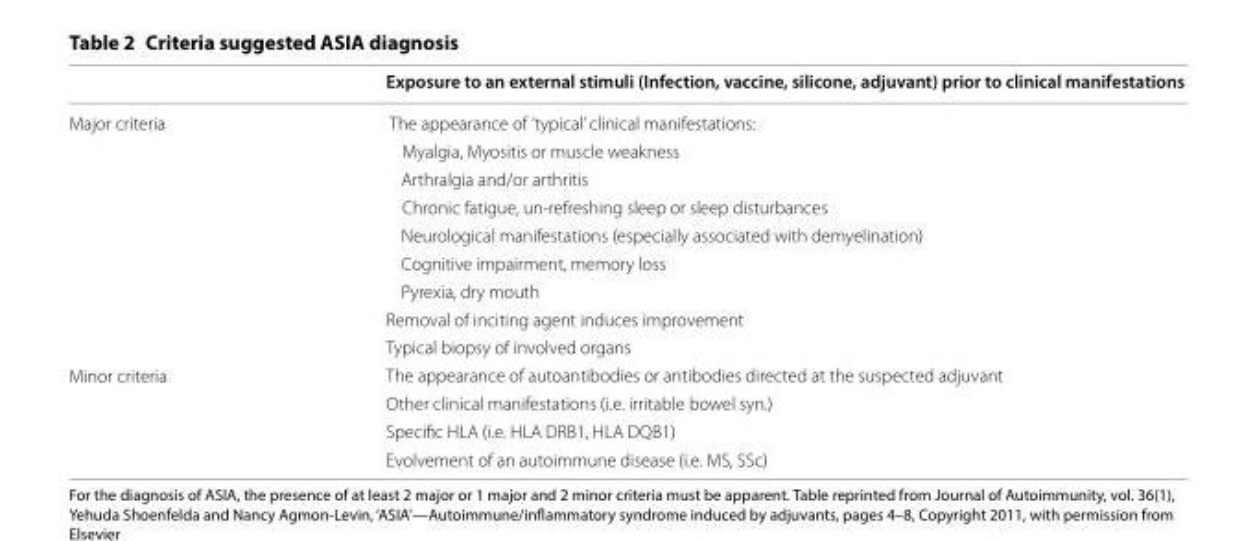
<table><thead><tr><td></td><td>Exposure to an external stimuli (Infection, vaccine, silicone, adjuvant) prior to clinical manifestations</td></tr></thead><tbody><tr><td rowspan="9">Major criteria</td><td>The appearance of ’typical’ clinical manifestations:</td></tr><tr><td>Myalgia, Myositis or muscle weakness</td></tr><tr><td>Arthralgia and/or arthritis</td></tr><tr><td>Chronic fatigue, un-refreshing sleep or sleep disturbances</td></tr><tr><td>Neurological manifestations (especially associated with demyelination)</td></tr><tr><td>Cognitive impairment, memory loss</td></tr><tr><td>Pyrexia, dry mouth</td></tr><tr><td>Removal of inciting agent induces improvement</td></tr><tr><td>Typical biopsy of involved organs</td></tr><tr><td rowspan="4">Minor criteria</td><td>The appearance of autoantibodies or antibodies directed at the suspected adjuvant</td></tr><tr><td>Other clinical manifestations (i.e. irritable bowel syn.)</td></tr><tr><td>Specific HLA (i.e. HLA DRB1, HLA DQB1)</td></tr><tr><td>Evolvement of an autoimmune disease (i.e. MS, SSc)</td></tr></tbody></table>